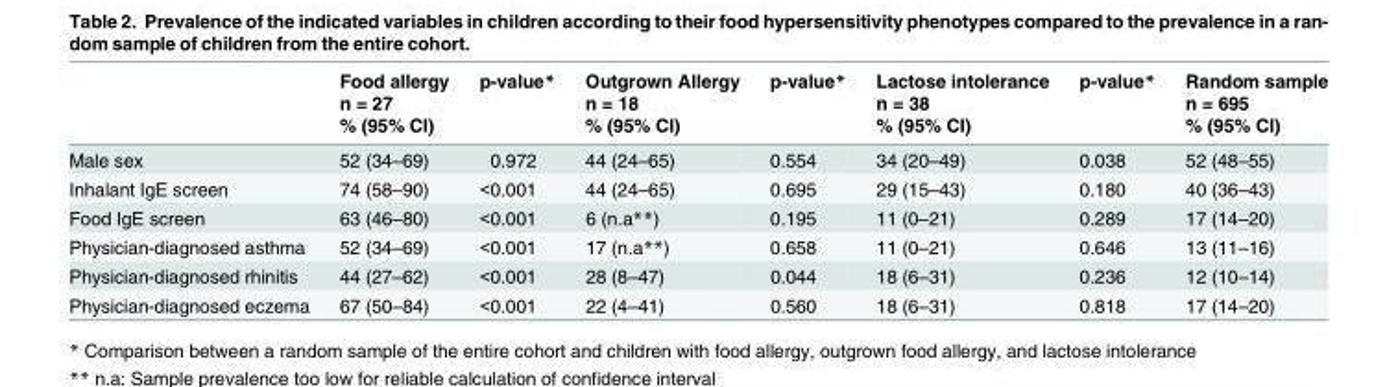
<table><thead><tr><td rowspan="2"></td><td rowspan="2">Food allergy n = 27 % (95% CI)</td><td rowspan="2">p-value*</td><td rowspan="2">Outgrown Allergy n = 18 % (95% CI)</td><td rowspan="2">p-value*</td><td rowspan="2">Lactose intolerance n = 38 % (95% CI)</td><td rowspan="2">p-value*</td><td rowspan="2">Random sample n = 695 % (95% CI)</td></tr><tr></tr></thead><tbody><tr><td>Male sex</td><td>52 (34–69)</td><td>0.972</td><td>44 (24–65)</td><td>0.554</td><td>34 (20–49)</td><td>0.038</td><td>52 (48–55)</td></tr><tr><td>Inhalant IgE screen</td><td>74 (58–90)</td><td>&lt;0.001</td><td>44 (24–65)</td><td>0.695</td><td>29 (15–43)</td><td>0.180</td><td>40 (36–43)</td></tr><tr><td>Food IgE screen</td><td>63 (46–80)</td><td>&lt;0.001</td><td>6 (n.a**)</td><td>0.195</td><td>11 (0–21)</td><td>0.289</td><td>17 (14–20)</td></tr><tr><td>Physician-diagnosed asthma</td><td>52 (34–69)</td><td>&lt;0.001</td><td>17 (n.a**)</td><td>0.658</td><td>11 (0–21)</td><td>0.646</td><td>13 (11–16)</td></tr><tr><td>Physician-diagnosed rhinitis</td><td>44 (27–62)</td><td>&lt;0.001</td><td>28 (8–47)</td><td>0.044</td><td>18 (6–31)</td><td>0.236</td><td>12 (10–14)</td></tr><tr><td>Physician-diagnosed eczema</td><td>67 (50–84)</td><td>&lt;0.001</td><td>22 (4–41)</td><td>0.560</td><td>18 (6–31)</td><td>0.818</td><td>17 (14–20)</td></tr></tbody></table>